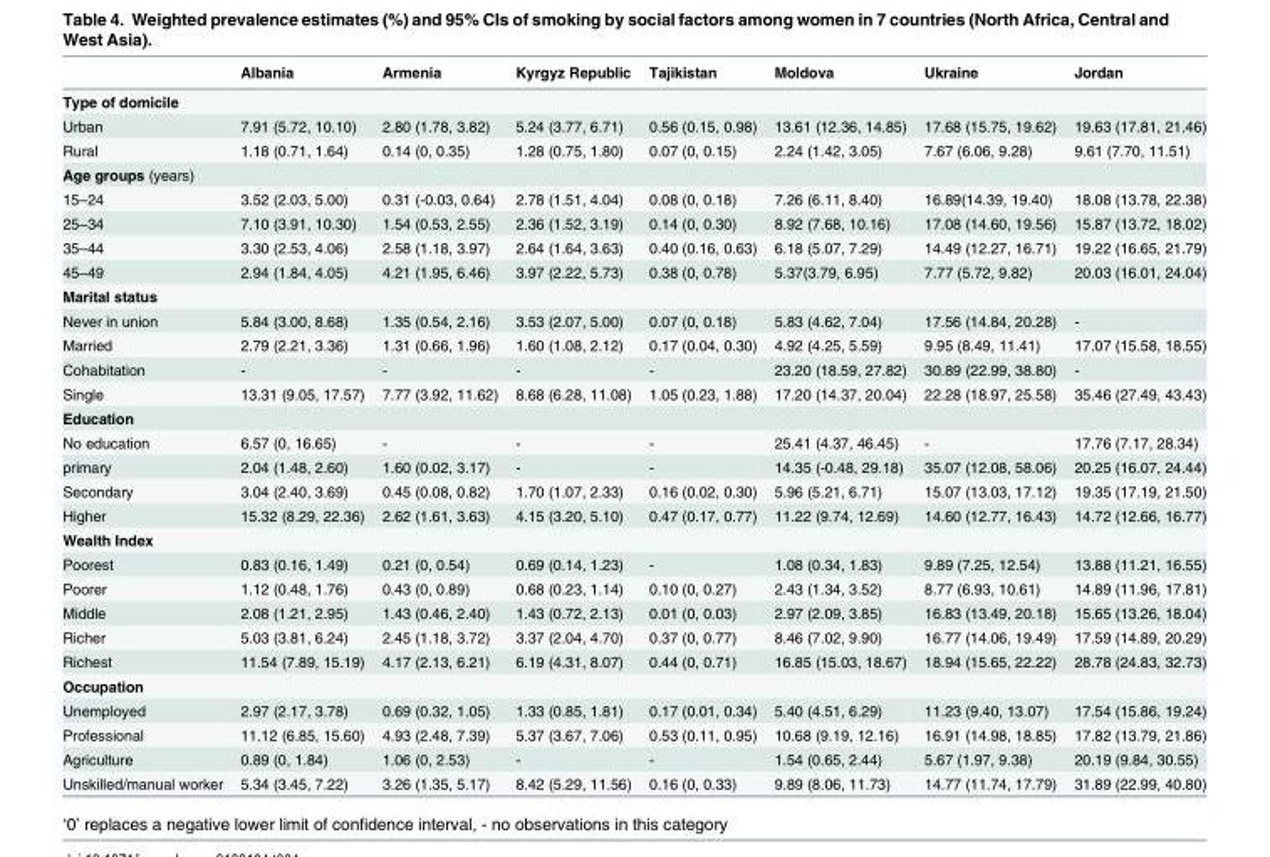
<table><thead><tr><td></td><td>Albania</td><td>Armenia</td><td>Kyrgyz Republic</td><td>Tajikistan</td><td>Moldova</td><td>Ukraine</td><td>Jordan</td></tr></thead><tbody><tr><td colspan="8">Type of domicile</td></tr><tr><td>Urban</td><td>7.91 (5.72, 10.10)</td><td>2.80 (1.78, 3.82)</td><td>5.24 (3.77, 6.71)</td><td>0.56 (0.15, 0.98)</td><td>13.61 (12.36, 14.85)</td><td>17.68 (15.75, 19.62)</td><td>19.63 (17.81, 21.46)</td></tr><tr><td>Rural</td><td>1.18 (0.71, 1.64)</td><td>0.14 (0, 0.35)</td><td>1.28 (0.75, 1.80)</td><td>0.07 (0, 0.15)</td><td>2.24 (1.42, 3.05)</td><td>7.67 (6.06, 9.28)</td><td>9.61 (7.70, 11.51)</td></tr><tr><td colspan="8">Age groups (years)</td></tr><tr><td>15–24</td><td>3.52 (2.03, 5.00)</td><td>0.31 (-0.03, 0.64)</td><td>2.78 (1.51, 4.04)</td><td>0.08 (0, 0.18)</td><td>7.26 (6.11, 8.40)</td><td>16.89(14.39, 19.40)</td><td>18.08 (13.78, 22.38)</td></tr><tr><td>25–34</td><td>7.10 (3.91, 10.30)</td><td>1.54 (0.53, 2.55)</td><td>2.36 (1.52, 3.19)</td><td>0.14 (0, 0.30)</td><td>8.92 (7.68, 10.16)</td><td>17.08 (14.60, 19.56)</td><td>15.87 (13.72, 18.02)</td></tr><tr><td>35–44</td><td>3.30 (2.53, 4.06)</td><td>2.58 (1.18, 3.97)</td><td>2.64 (1.64, 3.63)</td><td>0.40 (0.16, 0.63)</td><td>6.18 (5.07, 7.29)</td><td>14.49 (12.27, 16.71)</td><td>19.22 (16.65, 21.79)</td></tr><tr><td>45–49</td><td>2.94 (1.84, 4.05)</td><td>4.21 (1.95, 6.46)</td><td>3.97 (2.22, 5.73)</td><td>0.38 (0, 0.78)</td><td>5.37(3.79, 6.95)</td><td>7.77 (5.72, 9.82)</td><td>20.03 (16.01, 24.04)</td></tr><tr><td colspan="8">Marital status</td></tr><tr><td>Never in union</td><td>5.84 (3.00, 8.68)</td><td>1.35 (0.54, 2.16)</td><td>3.53 (2.07, 5.00)</td><td>0.07 (0, 0.18)</td><td>5.83 (4.62, 7.04)</td><td>17.56 (14.84, 20.28)</td><td>-</td></tr><tr><td>Married</td><td>2.79 (2.21, 3.36)</td><td>1.31 (0.66, 1.96)</td><td>1.60 (1.08, 2.12)</td><td>0.17 (0.04, 0.30)</td><td>4.92 (4.25, 5.59)</td><td>9.95 (8.49, 11.41)</td><td>17.07 (15.58, 18.55)</td></tr><tr><td>Cohabitation</td><td>-</td><td>-</td><td>-</td><td>-</td><td>23.20 (18.59, 27.82)</td><td>30.89 (22.99, 38.80)</td><td>-</td></tr><tr><td>Single</td><td>13.31 (9.05, 17.57)</td><td>7.77 (3.92, 11.62)</td><td>8.68 (6.28, 11.08)</td><td>1.05 (0.23, 1.88)</td><td>17.20 (14.37, 20.04)</td><td>22.28 (18.97, 25.58)</td><td>35.46 (27.49, 43.43)</td></tr><tr><td colspan="8">Education</td></tr><tr><td>No education</td><td>6.57 (0, 16.65)</td><td>-</td><td>-</td><td>-</td><td>25.41 (4.37, 46.45)</td><td>-</td><td>17.76 (7.17, 28.34)</td></tr><tr><td>primary</td><td>2.04 (1.48, 2.60)</td><td>1.60 (0.02, 3.17)</td><td>-</td><td>-</td><td>14.35 (-0.48, 29.18)</td><td>35.07 (12.08, 58.06)</td><td>20.25 (16.07, 24.44)</td></tr><tr><td>Secondary</td><td>3.04 (2.40, 3.69)</td><td>0.45 (0.08, 0.82)</td><td>1.70 (1.07, 2.33)</td><td>0.16 (0.02, 0.30)</td><td>5.96 (5.21, 6.71)</td><td>15.07 (13.03, 17.12)</td><td>19.35 (17.19, 21.50)</td></tr><tr><td>Higher</td><td>15.32 (8.29, 22.36)</td><td>2.62 (1.61, 3.63)</td><td>4.15 (3.20, 5.10)</td><td>0.47 (0.17, 0.77)</td><td>11.22 (9.74, 12.69)</td><td>14.60 (12.77, 16.43)</td><td>14.72 (12.66, 16.77)</td></tr><tr><td colspan="8">Wealth Index</td></tr><tr><td>Poorest</td><td>0.83 (0.16, 1.49)</td><td>0.21 (0, 0.54)</td><td>0.69 (0.14, 1.23)</td><td>-</td><td>1.08 (0.34, 1.83)</td><td>9.89 (7.25, 12.54)</td><td>13.88 (11.21, 16.55)</td></tr><tr><td>Poorer</td><td>1.12 (0.48, 1.76)</td><td>0.43 (0, 0.89)</td><td>0.68 (0.23, 1.14)</td><td>0.10 (0, 0.27)</td><td>2.43 (1.34, 3.52)</td><td>8.77 (6.93, 10.61)</td><td>14.89 (11.96, 17.81)</td></tr><tr><td>Middle</td><td>2.08 (1.21, 2.95)</td><td>1.43 (0.46, 2.40)</td><td>1.43 (0.72, 2.13)</td><td>0.01 (0, 0.03)</td><td>2.97 (2.09, 3.85)</td><td>16.83 (13.49, 20.18)</td><td>15.65 (13.26, 18.04)</td></tr><tr><td>Richer</td><td>5.03 (3.81, 6.24)</td><td>2.45 (1.18, 3.72)</td><td>3.37 (2.04, 4.70)</td><td>0.37 (0, 0.77)</td><td>8.46 (7.02, 9.90)</td><td>16.77 (14.06, 19.49)</td><td>17.59 (14.89, 20.29)</td></tr><tr><td>Richest</td><td>11.54 (7.89, 15.19)</td><td>4.17 (2.13, 6.21)</td><td>6.19 (4.31, 8.07)</td><td>0.44 (0, 0.71)</td><td>16.85 (15.03, 18.67)</td><td>18.94 (15.65, 22.22)</td><td>28.78 (24.83, 32.73)</td></tr><tr><td colspan="8">Occupation</td></tr><tr><td>Unemployed</td><td>2.97 (2.17, 3.78)</td><td>0.69 (0.32, 1.05)</td><td>1.33 (0.85, 1.81)</td><td>0.17 (0.01, 0.34)</td><td>5.40 (4.51, 6.29)</td><td>11.23 (9.40, 13.07)</td><td>17.54 (15.86, 19.24)</td></tr><tr><td>Professional</td><td>11.12 (6.85, 15.60)</td><td>4.93 (2.48, 7.39)</td><td>5.37 (3.67, 7.06)</td><td>0.53 (0.11, 0.95)</td><td>10.68 (9.19, 12.16)</td><td>16.91 (14.98, 18.85)</td><td>17.82 (13.79, 21.86)</td></tr><tr><td>Agriculture</td><td>0.89 (0, 1.84)</td><td>1.06 (0, 2.53)</td><td>-</td><td>-</td><td>1.54 (0.65, 2.44)</td><td>5.67 (1.97, 9.38)</td><td>20.19 (9.84, 30.55)</td></tr><tr><td>Unskilled/manual worker</td><td>5.34 (3.45, 7.22)</td><td>3.26 (1.35, 5.17)</td><td>8.42 (5.29, 11.56)</td><td>0.16 (0, 0.33)</td><td>9.89 (8.06, 11.73)</td><td>14.77 (11.74, 17.79)</td><td>31.89 (22.99, 40.80)</td></tr></tbody></table>